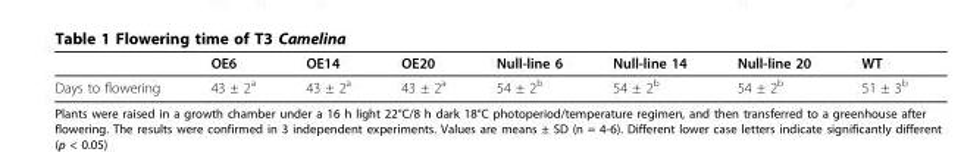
<table><thead><tr><td></td><td>OE6</td><td>OE14</td><td>OE20</td><td>Null-line 6</td><td>Null-line 14</td><td>Null-line 20</td><td>WT</td></tr></thead><tbody><tr><td>Days to flowering</td><td>43 ± 2<sup>a</sup></td><td>43 ± 2<sup>a</sup></td><td>43 ± 2<sup>a</sup></td><td>54 ± 2<sup>b</sup></td><td>54 ± 2<sup>b</sup></td><td>54 ± 2<sup>b</sup></td><td>51 ± 3<sup>b</sup></td></tr></tbody></table>